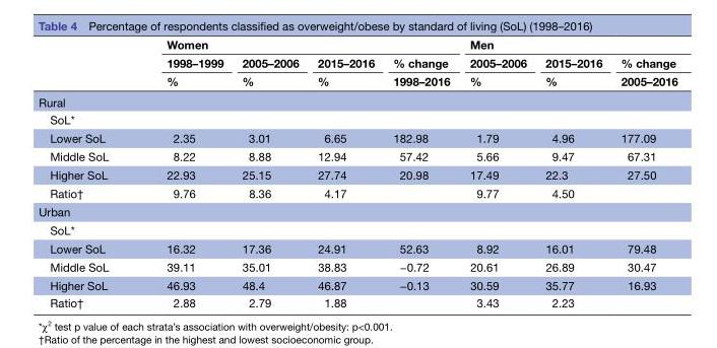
<table><thead><tr><td rowspan="3"></td><td colspan="4">Women</td><td colspan="3">Men</td></tr><tr><td rowspan="2">1998–1999 %</td><td rowspan="2">2005–2006 %</td><td rowspan="2">2015–2016 %</td><td rowspan="2">% change 1998–2016</td><td rowspan="2">2005–2006 %</td><td rowspan="2">2015–2016 %</td><td rowspan="2">% change 2005–2016</td></tr><tr></tr></thead><tbody><tr><td colspan="8">Rural</td></tr><tr><td colspan="8">SoL*</td></tr><tr><td>Lower SoL</td><td>2.35</td><td>3.01</td><td>6.65</td><td>182.98</td><td>1.79</td><td>4.96</td><td>177.09</td></tr><tr><td>Middle SoL</td><td>8.22</td><td>8.88</td><td>12.94</td><td>57.42</td><td>5.66</td><td>9.47</td><td>67.31</td></tr><tr><td>Higher SoL</td><td>22.93</td><td>25.15</td><td>27.74</td><td>20.98</td><td>17.49</td><td>22.3</td><td>27.50</td></tr><tr><td>Ratio†</td><td>9.76</td><td>8.36</td><td>4.17</td><td></td><td>9.77</td><td>4.50</td><td></td></tr><tr><td colspan="8">Urban</td></tr><tr><td colspan="8">SoL*</td></tr><tr><td>Lower SoL</td><td>16.32</td><td>17.36</td><td>24.91</td><td>52.63</td><td>8.92</td><td>16.01</td><td>79.48</td></tr><tr><td>Middle SoL</td><td>39.11</td><td>35.01</td><td>38.83</td><td>−0.72</td><td>20.61</td><td>26.89</td><td>30.47</td></tr><tr><td>Higher SoL</td><td>46.93</td><td>48.4</td><td>46.87</td><td>−0.13</td><td>30.59</td><td>35.77</td><td>16.93</td></tr><tr><td>Ratio†</td><td>2.88</td><td>2.79</td><td>1.88</td><td></td><td>3.43</td><td>2.23</td><td></td></tr></tbody></table>